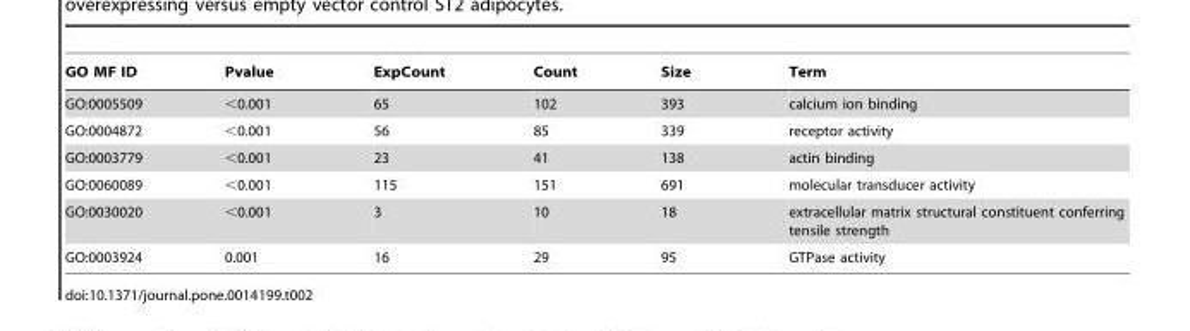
<table><thead><tr><td>GO MF ID</td><td>Pvalue</td><td>ExpCount</td><td>Count</td><td>Size</td><td>Term</td></tr></thead><tbody><tr><td>GO:0005509</td><td>&lt;0.001</td><td>65</td><td>102</td><td>393</td><td>calcium ion binding</td></tr><tr><td>GO:0004872</td><td>&lt;0.001</td><td>56</td><td>85</td><td>339</td><td>receptor activity</td></tr><tr><td>GO:0003779</td><td>&lt;0.001</td><td>23</td><td>41</td><td>138</td><td>actin binding</td></tr><tr><td>GO:0060089</td><td>&lt;0.001</td><td>115</td><td>151</td><td>691</td><td>molecular transducer activity</td></tr><tr><td>GO:0030020</td><td>&lt;0.001</td><td>3</td><td>10</td><td>18</td><td>extracellular matrix structural constituent conferring tensile strength</td></tr><tr><td>GO:0003924</td><td>0.001</td><td>16</td><td>29</td><td>95</td><td>GTPase activity</td></tr></tbody></table>